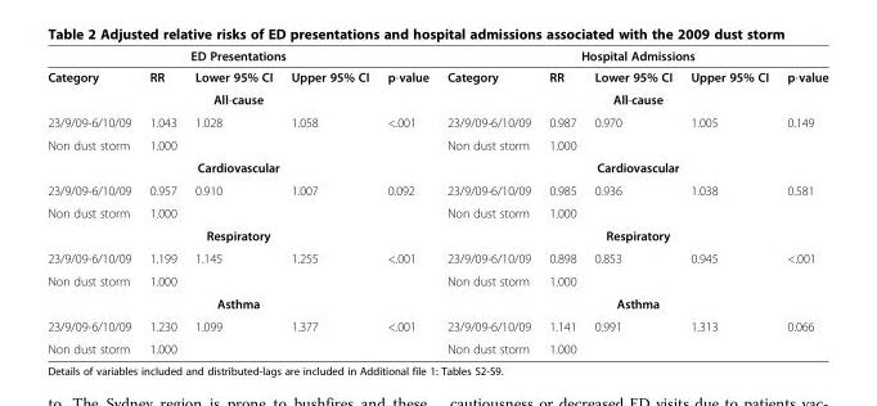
<table><thead><tr><td colspan="5">ED Presentations</td><td colspan="5">Hospital Admissions</td></tr><tr><td>Category</td><td>RR</td><td>Lower 95% CI</td><td>Upper 95% CI</td><td>p-value</td><td>Category</td><td>RR</td><td>Lower 95% CI</td><td>Upper 95% CI</td><td>p-value</td></tr></thead><tbody><tr><td colspan="5">All-cause</td><td colspan="5">All-cause</td></tr><tr><td>23/9/09-6/10/09</td><td>1.043</td><td>1.028</td><td>1.058</td><td>&lt;.001</td><td>23/9/09-6/10/09</td><td>0.987</td><td>0.970</td><td>1.005</td><td>0.149</td></tr><tr><td>Non dust storm</td><td>1.000</td><td></td><td></td><td></td><td>Non dust storm</td><td>1.000</td><td></td><td></td><td></td></tr><tr><td colspan="5">Cardiovascular</td><td colspan="5">Cardiovascular</td></tr><tr><td>23/9/09-6/10/09</td><td>0.957</td><td>0.910</td><td>1.007</td><td>0.092</td><td>23/9/09-6/10/09</td><td>0.985</td><td>0.936</td><td>1.038</td><td>0.581</td></tr><tr><td>Non dust storm</td><td>1.000</td><td></td><td></td><td></td><td>Non dust storm</td><td>1.000</td><td></td><td></td><td></td></tr><tr><td colspan="5">Respiratory</td><td colspan="5">Respiratory</td></tr><tr><td>23/9/09-6/10/09</td><td>1.199</td><td>1.145</td><td>1.255</td><td>&lt;.001</td><td>23/9/09-6/10/09</td><td>0.898</td><td>0.853</td><td>0.945</td><td>&lt;.001</td></tr><tr><td>Non dust storm</td><td>1.000</td><td></td><td></td><td></td><td>Non dust storm</td><td>1.000</td><td></td><td></td><td></td></tr><tr><td colspan="5">Asthma</td><td colspan="5">Asthma</td></tr><tr><td>23/9/09-6/10/09</td><td>1.230</td><td>1.099</td><td>1.377</td><td>&lt;.001</td><td>23/9/09-6/10/09</td><td>1.141</td><td>0.991</td><td>1.313</td><td>0.066</td></tr><tr><td>Non dust storm</td><td>1.000</td><td></td><td></td><td></td><td>Non dust storm</td><td>1.000</td><td></td><td></td><td></td></tr></tbody></table>